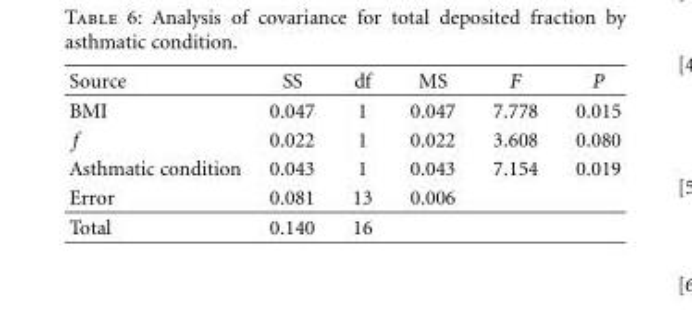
<table><thead><tr><td>Source</td><td>SS</td><td>df</td><td>MS</td><td>F</td><td>P</td></tr></thead><tbody><tr><td>BMI</td><td>0.047</td><td>1</td><td>0.047</td><td>7.778</td><td>0.015</td></tr><tr><td>f</td><td>0.022</td><td>1</td><td>0.022</td><td>3.608</td><td>0.080</td></tr><tr><td>Asthmatic condition</td><td>0.043</td><td>1</td><td>0.043</td><td>7.154</td><td>0.019</td></tr><tr><td>Error</td><td>0.081</td><td>13</td><td>0.006</td><td></td><td></td></tr><tr><td>Total</td><td>0.140</td><td>16</td><td></td><td></td><td></td></tr></tbody></table>